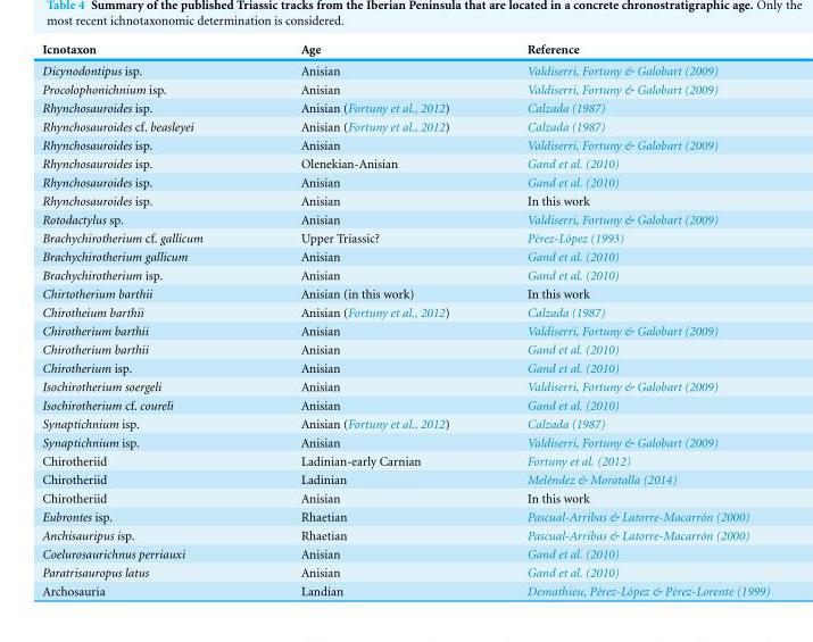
<table><thead><tr><td>Icnotaxon</td><td>Age</td><td>Reference</td></tr></thead><tbody><tr><td>Dicynodontipus isp.</td><td>Anisian</td><td>Valdiserri, Fortuny &amp; Galobart (2009)</td></tr><tr><td>Procolophonichnium isp.</td><td>Anisian</td><td>Valdiserri, Fortuny &amp; Galobart (2009)</td></tr><tr><td>Rhynchosauroides isp.</td><td>Anisian (Fortuny et al., 2012)</td><td>Calzada (1987)</td></tr><tr><td>Rhynchosauroides cf. beasleyei</td><td>Anisian (Fortuny et al., 2012)</td><td>Calzada (1987)</td></tr><tr><td>Rhynchosauroides isp.</td><td>Anisian</td><td>Valdiserri, Fortuny &amp; Galobart (2009)</td></tr><tr><td>Rhynchosauroides isp.</td><td>Olenekian-Anisian</td><td>Gand et al. (2010)</td></tr><tr><td>Rhynchosauroides isp.</td><td>Anisian</td><td>Gand et al. (2010)</td></tr><tr><td>Rhynchosauroides isp.</td><td>Anisian</td><td>In this work</td></tr><tr><td>Rotodactylus sp.</td><td>Anisian</td><td>Valdiserri, Fortuny &amp; Galobart (2009)</td></tr><tr><td>Brachychirotherium cf. gallicum</td><td>Upper Triassic?</td><td>P´erez-L´opez (1993)</td></tr><tr><td>Brachychirotherium gallicum</td><td>Anisian</td><td>Gand et al. (2010)</td></tr><tr><td>Brachychirotherium isp.</td><td>Anisian</td><td>Gand et al. (2010)</td></tr><tr><td>Chirtotherium barthii</td><td>Anisian (in this work)</td><td>In this work</td></tr><tr><td>Chirotheium barthii</td><td>Anisian (Fortuny et al., 2012)</td><td>Calzada (1987)</td></tr><tr><td>Chirotherium barthii</td><td>Anisian</td><td>Valdiserri, Fortuny &amp; Galobart (2009)</td></tr><tr><td>Chirotherium barthii</td><td>Anisian</td><td>Gand et al. (2010)</td></tr><tr><td>Chirotherium isp.</td><td>Anisian</td><td>Gand et al. (2010)</td></tr><tr><td>Isochirotherium soergeli</td><td>Anisian</td><td>Valdiserri, Fortuny &amp; Galobart (2009)</td></tr><tr><td>Isochirotherium cf. coureli</td><td>Anisian</td><td>Gand et al. (2010)</td></tr><tr><td>Synaptichnium isp.</td><td>Anisian (Fortuny et al., 2012)</td><td>Calzada (1987)</td></tr><tr><td>Synaptichnium isp.</td><td>Anisian</td><td>Valdiserri, Fortuny &amp; Galobart (2009)</td></tr><tr><td>Chirotheriid</td><td>Ladinian-early Carnian</td><td>Fortuny et al. (2012)</td></tr><tr><td>Chirotheriid</td><td>Ladinian</td><td>Mel´endez &amp; Moratalla (2014)</td></tr><tr><td>Chirotheriid</td><td>Anisian</td><td>In this work</td></tr><tr><td>Eubrontes isp.</td><td>Rhaetian</td><td>Pascual-Arribas &amp; Latorre-Macarr´on (2000)</td></tr><tr><td>Anchisauripus isp.</td><td>Rhaetian</td><td>Pascual-Arribas &amp; Latorre-Macarr´on (2000)</td></tr><tr><td>Coelurosaurichnus perriauxi</td><td>Anisian</td><td>Gand et al. (2010)</td></tr><tr><td>Paratrisauropus latus</td><td>Anisian</td><td>Gand et al. (2010)</td></tr><tr><td>Archosauria</td><td>Landian</td><td>Demathieu, P´erez-L´opez &amp; P´erez-Lorente (1999)</td></tr></tbody></table>